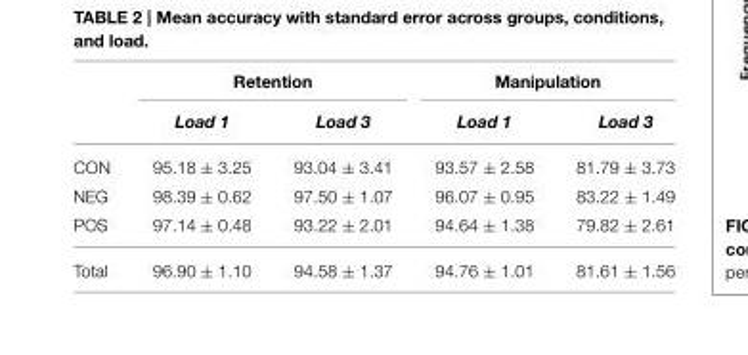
<table><thead><tr><td rowspan="2"></td><td colspan="2">Retention</td><td colspan="2">Manipulation</td></tr><tr><td>Load 1</td><td>Load 3</td><td>Load 1</td><td>Load 3</td></tr></thead><tbody><tr><td>CON</td><td>95.18 ± 3.25</td><td>93.04 ± 3.41</td><td>93.57 ± 2.58</td><td>81.79 ± 3.73</td></tr><tr><td>NEG</td><td>98.39 ± 0.62</td><td>97.50 ± 1.07</td><td>96.07 ± 0.95</td><td>83.22 ± 1.49</td></tr><tr><td>POS</td><td>97.14 ± 0.48</td><td>93.22 ± 2.01</td><td>94.64 ± 1.38</td><td>79.82 ± 2.61</td></tr><tr><td>Total</td><td>96.90 ± 1.10</td><td>94.58 ± 1.37</td><td>94.76 ± 1.01</td><td>81.61 ± 1.56</td></tr></tbody></table>